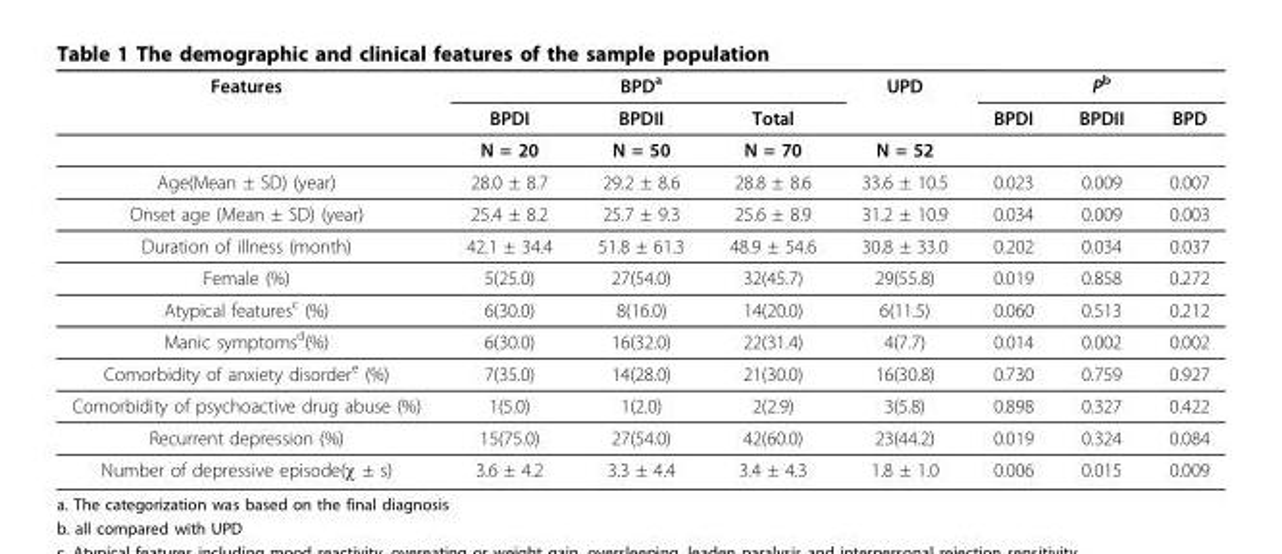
<table><thead><tr><td rowspan="2">Features</td><td colspan="3">BPD<sup>a</sup></td><td rowspan="2">UPD</td><td colspan="3">P<sup>b</sup></td></tr><tr><td>BPDI</td><td>BPDII</td><td>Total</td><td>BPDI</td><td>BPDII</td><td>BPD</td></tr></thead><tbody><tr><td></td><td>N = 20</td><td>N = 50</td><td>N = 70</td><td>N = 52</td><td></td><td></td><td></td></tr><tr><td>Age(Mean ± SD) (year)</td><td>28.0 ± 8.7</td><td>29.2 ± 8.6</td><td>28.8 ± 8.6</td><td>33.6 ± 10.5</td><td>0.023</td><td>0.009</td><td>0.007</td></tr><tr><td>Onset age (Mean ± SD) (year)</td><td>25.4 ± 8.2</td><td>25.7 ± 9.3</td><td>25.6 ± 8.9</td><td>31.2 ± 10.9</td><td>0.034</td><td>0.009</td><td>0.003</td></tr><tr><td>Duration of illness (month)</td><td>42.1 ± 34.4</td><td>51.8 ± 61.3</td><td>48.9 ± 54.6</td><td>30.8 ± 33.0</td><td>0.202</td><td>0.034</td><td>0.037</td></tr><tr><td>Female (%)</td><td>5(25.0)</td><td>27(54.0)</td><td>32(45.7)</td><td>29(55.8)</td><td>0.019</td><td>0.858</td><td>0.272</td></tr><tr><td>Atypical features<sup>c</sup> (%)</td><td>6(30.0)</td><td>8(16.0)</td><td>14(20.0)</td><td>6(11.5)</td><td>0.060</td><td>0.513</td><td>0.212</td></tr><tr><td>Manic symptoms<sup>d</sup>(%)</td><td>6(30.0)</td><td>16(32.0)</td><td>22(31.4)</td><td>4(7.7)</td><td>0.014</td><td>0.002</td><td>0.002</td></tr><tr><td>Comorbidity of anxiety disorder<sup>e</sup> (%)</td><td>7(35.0)</td><td>14(28.0)</td><td>21(30.0)</td><td>16(30.8)</td><td>0.730</td><td>0.759</td><td>0.927</td></tr><tr><td>Comorbidity of psychoactive drug abuse (%)</td><td>1(5.0)</td><td>1(2.0)</td><td>2(2.9)</td><td>3(5.8)</td><td>0.898</td><td>0.327</td><td>0.422</td></tr><tr><td>Recurrent depression (%)</td><td>15(75.0)</td><td>27(54.0)</td><td>42(60.0)</td><td>23(44.2)</td><td>0.019</td><td>0.324</td><td>0.084</td></tr><tr><td>Number of depressive episode(χ ± s)</td><td>3.6 ± 4.2</td><td>3.3 ± 4.4</td><td>3.4 ± 4.3</td><td>1.8 ± 1.0</td><td>0.006</td><td>0.015</td><td>0.009</td></tr></tbody></table>